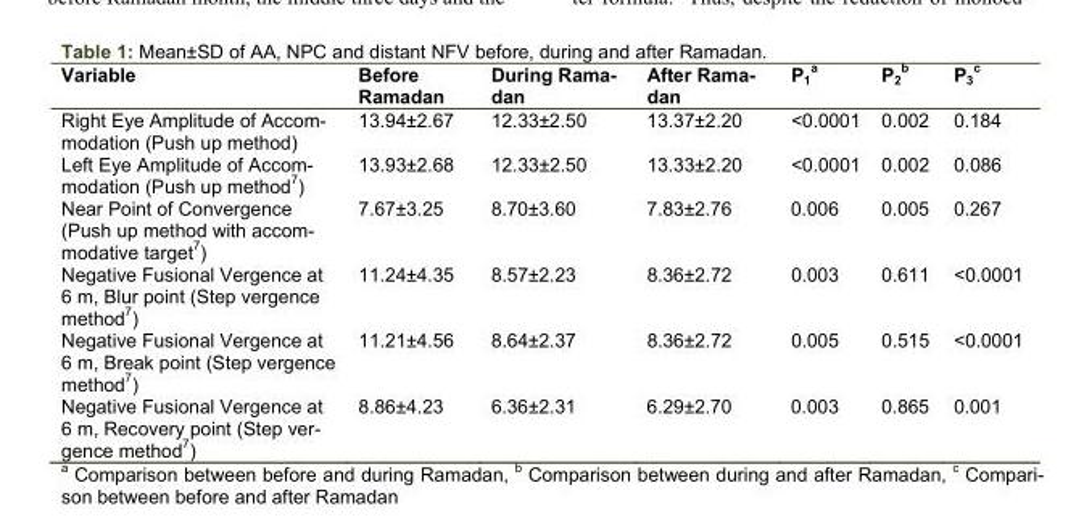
<table><thead><tr><td>Variable</td><td>Before Ramadan</td><td>During Rama- dan</td><td>After Rama- dan</td><td>P<sub>1</sub> <sup>a</sup></td><td>P<sub>2</sub> b</td><td>P<sub>3</sub> c</td></tr></thead><tbody><tr><td>Right Eye Amplitude of Accom- modation (Push up method)</td><td>13.94±2.67</td><td>12.33±2.50</td><td>13.37±2.20</td><td>&lt;0.0001</td><td>0.002</td><td>0.184</td></tr><tr><td>Left Eye Amplitude of Accom- modation (Push up method7)</td><td>13.93±2.68</td><td>12.33±2.50</td><td>13.33±2.20</td><td>&lt;0.0001</td><td>0.002</td><td>0.086</td></tr><tr><td>Near Point of Convergence (Push up method with accom- modative target7)</td><td>7.67±3.25</td><td>8.70±3.60</td><td>7.83±2.76</td><td>0.006</td><td>0.005</td><td>0.267</td></tr><tr><td>Negative Fusional Vergence at 6 m, Blur point (Step vergence method7)</td><td>11.24±4.35</td><td>8.57±2.23</td><td>8.36±2.72</td><td>0.003</td><td>0.611</td><td>&lt;0.0001</td></tr><tr><td>Negative Fusional Vergence at 6 m, Break point (Step vergence method7)</td><td>11.21±4.56</td><td>8.64±2.37</td><td>8.36±2.72</td><td>0.005</td><td>0.515</td><td>&lt;0.0001</td></tr><tr><td>Negative Fusional Vergence at 6 m, Recovery point (Step ver- gence method7)</td><td>8.86±4.23</td><td>6.36±2.31</td><td>6.29±2.70</td><td>0.003</td><td>0.865</td><td>0.001</td></tr></tbody></table>